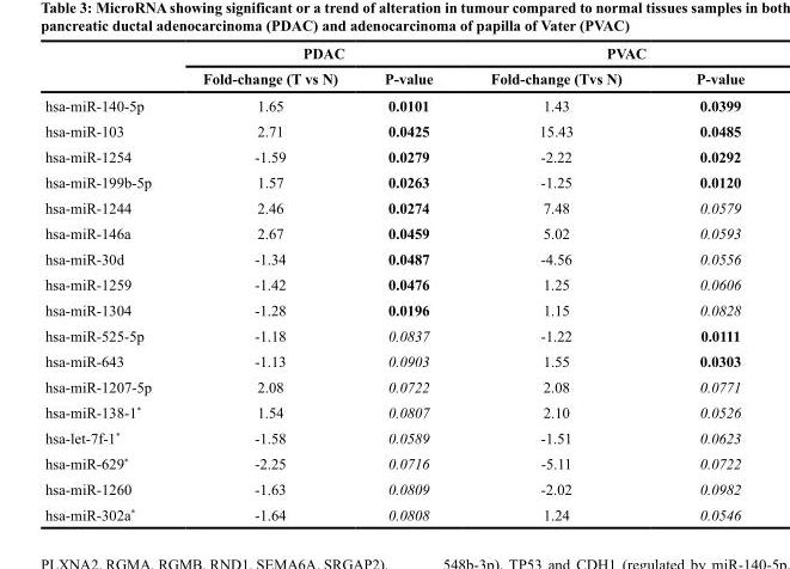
<table><thead><tr><td rowspan="2"></td><td colspan="2">PDAC</td><td colspan="2">PVAC</td></tr><tr><td>Fold-change (T vs N)</td><td>P-value</td><td>Fold-change (Tvs N)</td><td>P-value</td></tr></thead><tbody><tr><td>hsa-miR-140-5p</td><td>1.65</td><td>0.0101</td><td>1.43</td><td>0.0399</td></tr><tr><td>hsa-miR-103</td><td>2.71</td><td>0.0425</td><td>15.43</td><td>0.0485</td></tr><tr><td>hsa-miR-1254</td><td>-1.59</td><td>0.0279</td><td>-2.22</td><td>0.0292</td></tr><tr><td>hsa-miR-199b-5p</td><td>1.57</td><td>0.0263</td><td>-1.25</td><td>0.0120</td></tr><tr><td>hsa-miR-1244</td><td>2.46</td><td>0.0274</td><td>7.48</td><td>0.0579</td></tr><tr><td>hsa-miR-146a</td><td>2.67</td><td>0.0459</td><td>5.02</td><td>0.0593</td></tr><tr><td>hsa-miR-30d</td><td>-1.34</td><td>0.0487</td><td>-4.56</td><td>0.0556</td></tr><tr><td>hsa-miR-1259</td><td>-1.42</td><td>0.0476</td><td>1.25</td><td>0.0606</td></tr><tr><td>hsa-miR-1304</td><td>-1.28</td><td>0.0196</td><td>1.15</td><td>0.0828</td></tr><tr><td>hsa-miR-525-5p</td><td>-1.18</td><td>0.0837</td><td>-1.22</td><td>0.0111</td></tr><tr><td>hsa-miR-643</td><td>-1.13</td><td>0.0903</td><td>1.55</td><td>0.0303</td></tr><tr><td>hsa-miR-1207-5p</td><td>2.08</td><td>0.0722</td><td>2.08</td><td>0.0771</td></tr><tr><td>hsa-miR-138-1*</td><td>1.54</td><td>0.0807</td><td>2.10</td><td>0.0526</td></tr><tr><td>hsa-let-7f-1*</td><td>-1.58</td><td>0.0589</td><td>-1.51</td><td>0.0623</td></tr><tr><td>hsa-miR-629*</td><td>-2.25</td><td>0.0716</td><td>-5.11</td><td>0.0722</td></tr><tr><td>hsa-miR-1260</td><td>-1.63</td><td>0.0809</td><td>-2.02</td><td>0.0982</td></tr><tr><td>hsa-miR-302a*</td><td>-1.64</td><td>0.0808</td><td>1.24</td><td>0.0546</td></tr></tbody></table>